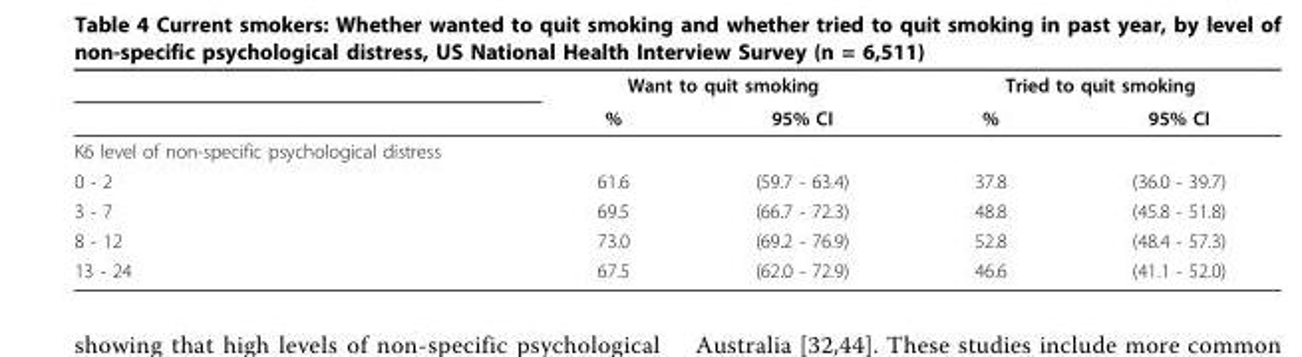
<table><thead><tr><td rowspan="2"></td><td colspan="2">Want to quit smoking</td><td colspan="2">Tried to quit smoking</td></tr><tr><td>%</td><td>95% CI</td><td>%</td><td>95% CI</td></tr></thead><tbody><tr><td colspan="5">K6 level of non-specific psychological distress</td></tr><tr><td>0 - 2</td><td>61.6</td><td>(59.7 - 63.4)</td><td>37.8</td><td>(36.0 - 39.7)</td></tr><tr><td>3 - 7</td><td>69.5</td><td>(66.7 - 72.3)</td><td>48.8</td><td>(45.8 - 51.8)</td></tr><tr><td>8 - 12</td><td>73.0</td><td>(69.2 - 76.9)</td><td>52.8</td><td>(48.4 - 57.3)</td></tr><tr><td>13 - 24</td><td>67.5</td><td>(62.0 - 72.9)</td><td>46.6</td><td>(41.1 - 52.0)</td></tr></tbody></table>